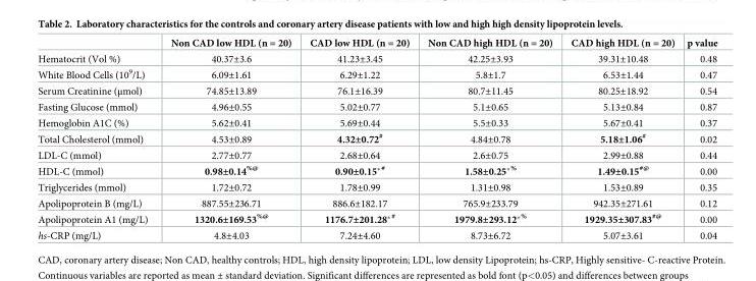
<table><thead><tr><td></td><td>Non CAD low HDL (n = 20)</td><td>CAD low HDL (n = 20)</td><td>Non CAD high HDL (n = 20)</td><td>CAD high HDL (n = 20)</td><td>p value</td></tr></thead><tbody><tr><td>Hematocrit (Vol %)</td><td>40.37±3.6</td><td>41.23±3.45</td><td>42.25±3.93</td><td>39.31±10.48</td><td>0.48</td></tr><tr><td>White Blood Cells (10<sup>9</sup>/L)</td><td>6.09±1.61</td><td>6.29±1.22</td><td>5.8±1.7</td><td>6.53±1.44</td><td>0.47</td></tr><tr><td>Serum Creatinine (μmol)</td><td>74.85±13.89</td><td>76.1±16.39</td><td>80.7±11.45</td><td>80.25±18.92</td><td>0.54</td></tr><tr><td>Fasting Glucose (mmol)</td><td>4.96±0.55</td><td>5.02±0.77</td><td>5.1±0.65</td><td>5.13±0.84</td><td>0.87</td></tr><tr><td>Hemoglobin A1C (%)</td><td>5.62±0.41</td><td>5.69±0.44</td><td>5.5±0.33</td><td>5.67±0.41</td><td>0.37</td></tr><tr><td>Total Cholesterol (mmol)</td><td>4.53±0.89</td><td>4.32±0.72<sup>#</sup></td><td>4.84±0.78</td><td>5.18±1.06<sup>#</sup></td><td>0.02</td></tr><tr><td>LDL-C (mmol)</td><td>2.77±0.77</td><td>2.68±0.64</td><td>2.6±0.75</td><td>2.99±0.88</td><td>0.44</td></tr><tr><td>HDL-C (mmol)</td><td>0.98±0.14<sup>%@</sup></td><td>0.90±0.15*<sup>#</sup></td><td>1.58±0.25*<sup>%</sup></td><td>1.49±0.15<sup>#@</sup></td><td>0.00</td></tr><tr><td>Triglycerides (mmol)</td><td>1.72±0.72</td><td>1.78±0.99</td><td>1.31±0.98</td><td>1.53±0.89</td><td>0.35</td></tr><tr><td>Apolipoprotein B (mg/L)</td><td>887.55±236.71</td><td>886.6±182.17</td><td>765.9±233.79</td><td>942.35±271.61</td><td>0.12</td></tr><tr><td>Apolipoprotein A1 (mg/L)</td><td>1320.6±169.53<sup>%@</sup></td><td>1176.7±201.28*<sup>#</sup></td><td>1979.8±293.12*<sup>%</sup></td><td>1929.35±307.83<sup>#@</sup></td><td>0.00</td></tr><tr><td>hs-CRP (mg/L)</td><td>4.8±4.03</td><td>7.24±4.60</td><td>8.73±6.72</td><td>5.07±3.61</td><td>0.04</td></tr></tbody></table>